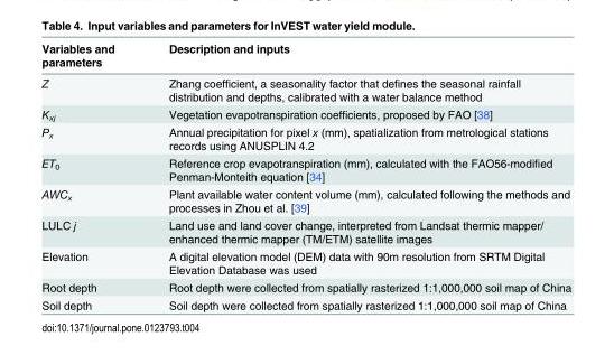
<table><thead><tr><td>Variables and parameters</td><td>Description and inputs</td></tr></thead><tbody><tr><td>Z</td><td>Zhang coefficient, a seasonality factor that defines the seasonal rainfall distribution and depths, calibrated with a water balance method</td></tr><tr><td>K<sub>xj</sub></td><td>Vegetation evapotranspiration coefficients, proposed by FAO [38]</td></tr><tr><td>P<sub>x</sub></td><td>Annual precipitation for pixel x (mm), spatialization from metrological stations records using ANUSPLIN 4.2</td></tr><tr><td>ET<sub>0</sub></td><td>Reference crop evapotranspiration (mm), calculated with the FAO56-modified Penman-Monteith equation [34]</td></tr><tr><td>AWC<sub>x</sub></td><td>Plant available water content volume (mm), calculated following the methods and processes in Zhou et al. [39]</td></tr><tr><td>LULC j</td><td>Land use and land cover change, interpreted from Landsat thermic mapper/ enhanced thermic mapper (TM/ETM) satellite images</td></tr><tr><td>Elevation</td><td>A digital elevation model (DEM) data with 90m resolution from SRTM Digital Elevation Database was used</td></tr><tr><td>Root depth</td><td>Root depth were collected from spatially rasterized 1:1,000,000 soil map of China</td></tr><tr><td>Soil depth</td><td>Soil depth were collected from spatially rasterized 1:1,000,000 soil map of China</td></tr></tbody></table>